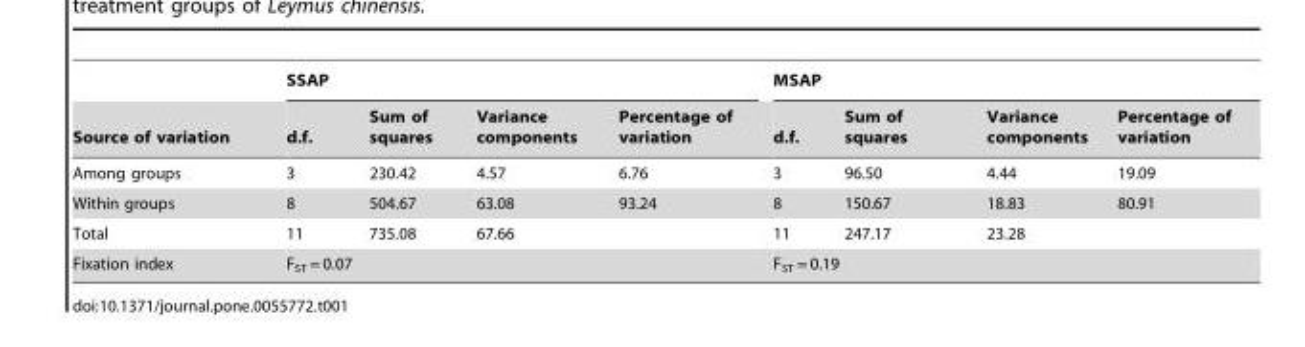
<table><thead><tr><td rowspan="2">Source of variation</td><td colspan="4">SSAP</td><td colspan="4">MSAP</td></tr><tr><td>d.f.</td><td>Sum of squares</td><td>Variance components</td><td>Percentage of variation</td><td>d.f.</td><td>Sum of squares</td><td>Variance components</td><td>Percentage of variation</td></tr></thead><tbody><tr><td>Among groups</td><td>3</td><td>230.42</td><td>4.57</td><td>6.76</td><td>3</td><td>96.50</td><td>4.44</td><td>19.09</td></tr><tr><td>Within groups</td><td>8</td><td>504.67</td><td>63.08</td><td>93.24</td><td>8</td><td>150.67</td><td>18.83</td><td>80.91</td></tr><tr><td>Total</td><td>11</td><td>735.08</td><td>67.66</td><td></td><td>11</td><td>247.17</td><td>23.28</td><td></td></tr><tr><td>Fixation index</td><td colspan="4">F<sub>ST</sub> = 0.07</td><td colspan="4">F<sub>ST</sub> = 0.19</td></tr></tbody></table>